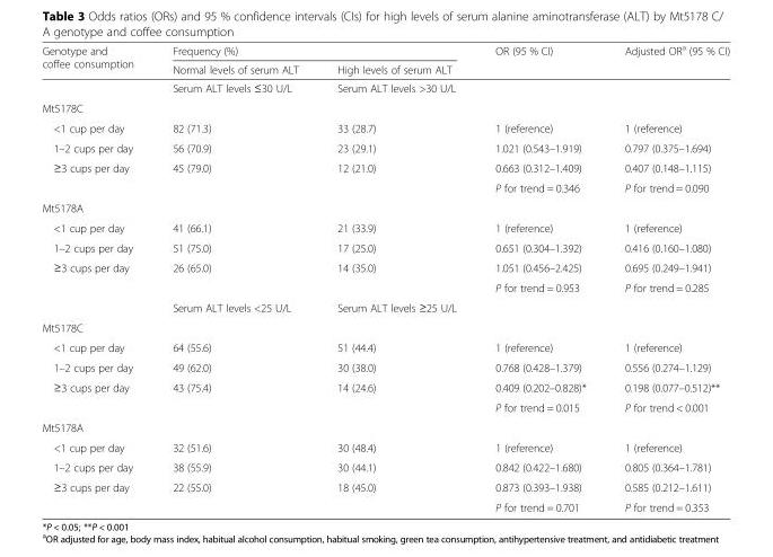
<table><thead><tr><td rowspan="2">Genotype and coffee consumption</td><td colspan="2">Frequency (%)</td><td rowspan="2">OR (95 % CI)</td><td rowspan="2">Adjusted OR<sup>a</sup> (95 % CI)</td></tr><tr><td>Normal levels of serum ALT</td><td>High levels of serum ALT</td></tr></thead><tbody><tr><td></td><td>Serum ALT levels ≤30 U/L</td><td>Serum ALT levels &gt;30 U/L</td><td></td><td></td></tr><tr><td colspan="5">Mt5178C</td></tr><tr><td>&lt;1 cup per day</td><td>82 (71.3)</td><td>33 (28.7)</td><td>1 (reference)</td><td>1 (reference)</td></tr><tr><td>1–2 cups per day</td><td>56 (70.9)</td><td>23 (29.1)</td><td>1.021 (0.543–1.919)</td><td>0.797 (0.375–1.694)</td></tr><tr><td rowspan="2">≥3 cups per day</td><td>45 (79.0)</td><td>12 (21.0)</td><td>0.663 (0.312–1.409)</td><td>0.407 (0.148–1.115)</td></tr><tr><td></td><td></td><td>P for trend = 0.346</td><td>P for trend = 0.090</td></tr><tr><td colspan="5">Mt5178A</td></tr><tr><td>&lt;1 cup per day</td><td>41 (66.1)</td><td>21 (33.9)</td><td>1 (reference)</td><td>1 (reference)</td></tr><tr><td>1–2 cups per day</td><td>51 (75.0)</td><td>17 (25.0)</td><td>0.651 (0.304–1.392)</td><td>0.416 (0.160–1.080)</td></tr><tr><td rowspan="3">≥3 cups per day</td><td>26 (65.0)</td><td>14 (35.0)</td><td>1.051 (0.456–2.425)</td><td>0.695 (0.249–1.941)</td></tr><tr><td></td><td></td><td>P for trend = 0.953</td><td>P for trend = 0.285</td></tr><tr><td>Serum ALT levels &lt;25 U/L</td><td>Serum ALT levels ≥25 U/L</td><td></td><td></td></tr><tr><td colspan="5">Mt5178C</td></tr><tr><td>&lt;1 cup per day</td><td>64 (55.6)</td><td>51 (44.4)</td><td>1 (reference)</td><td>1 (reference)</td></tr><tr><td>1–2 cups per day</td><td>49 (62.0)</td><td>30 (38.0)</td><td>0.768 (0.428–1.379)</td><td>0.556 (0.274–1.129)</td></tr><tr><td rowspan="2">≥3 cups per day</td><td>43 (75.4)</td><td>14 (24.6)</td><td>0.409 (0.202–0.828)*</td><td>0.198 (0.077–0.512)**</td></tr><tr><td></td><td></td><td>P for trend = 0.015</td><td>P for trend &lt; 0.001</td></tr><tr><td colspan="5">Mt5178A</td></tr><tr><td>&lt;1 cup per day</td><td>32 (51.6)</td><td>30 (48.4)</td><td>1 (reference)</td><td>1 (reference)</td></tr><tr><td>1–2 cups per day</td><td>38 (55.9)</td><td>30 (44.1)</td><td>0.842 (0.422–1.680)</td><td>0.805 (0.364–1.781)</td></tr><tr><td rowspan="2">≥3 cups per day</td><td>22 (55.0)</td><td>18 (45.0)</td><td>0.873 (0.393–1.938)</td><td>0.585 (0.212–1.611)</td></tr><tr><td></td><td></td><td>P for trend = 0.701</td><td>P for trend = 0.353</td></tr></tbody></table>